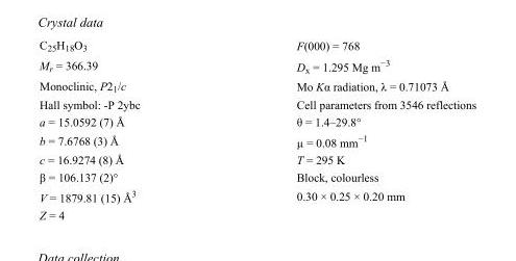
<table><tbody><tr><td>C<sub>25</sub>H<sub>18</sub>O<sub>3</sub></td><td>F(000) = 768</td></tr><tr><td>M<sub>r</sub> = 366.39</td><td>D<sub>x</sub> = 1.295 Mg m<sup>−3</sup></td></tr><tr><td>Monoclinic, P2<sub>1</sub>/c</td><td>Mo Kα radiation, λ = 0.71073 Å</td></tr><tr><td>Hall symbol: -P 2ybc</td><td>Cell parameters from 3546 reflections</td></tr><tr><td>a = 15.0592 (7) Å</td><td>θ = 1.4–29.8°</td></tr><tr><td>b = 7.6768 (3) Å</td><td>µ = 0.08 mm<sup>−1</sup></td></tr><tr><td>c = 16.9274 (8) Å</td><td>T = 295 K</td></tr><tr><td>β = 106.137 (2)°</td><td>Block, colourless</td></tr><tr><td>V = 1879.81 (15) Å<sup>3</sup></td><td>0.30 × 0.25 × 0.20 mm</td></tr><tr><td>Z = 4</td><td></td></tr></tbody></table>